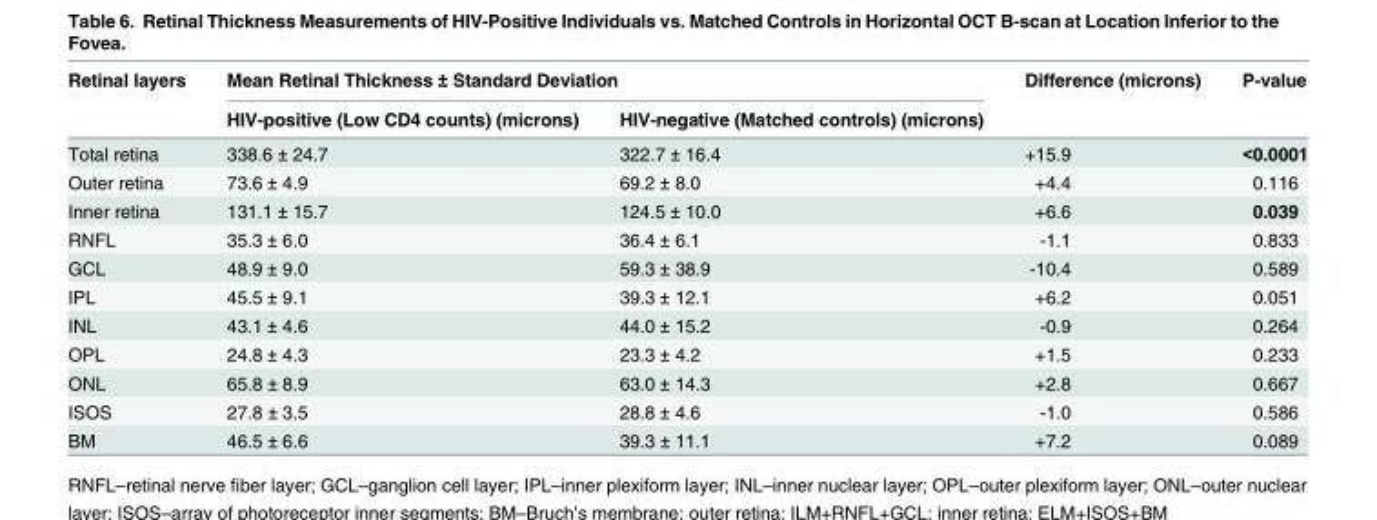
<table><thead><tr><td rowspan="2">Retinal layers</td><td colspan="2">Mean Retinal Thickness ± Standard Deviation</td><td rowspan="2">Difference (microns)</td><td rowspan="2">P-value</td></tr><tr><td>HIV-positive (Low CD4 counts) (microns)</td><td>HIV-negative (Matched controls) (microns)</td></tr></thead><tbody><tr><td>Total retina</td><td>338.6 ± 24.7</td><td>322.7 ± 16.4</td><td>+15.9</td><td>&lt;0.0001</td></tr><tr><td>Outer retina</td><td>73.6 ± 4.9</td><td>69.2 ± 8.0</td><td>+4.4</td><td>0.116</td></tr><tr><td>Inner retina</td><td>131.1 ± 15.7</td><td>124.5 ± 10.0</td><td>+6.6</td><td>0.039</td></tr><tr><td>RNFL</td><td>35.3 ± 6.0</td><td>36.4 ± 6.1</td><td>-1.1</td><td>0.833</td></tr><tr><td>GCL</td><td>48.9 ± 9.0</td><td>59.3 ± 38.9</td><td>-10.4</td><td>0.589</td></tr><tr><td>IPL</td><td>45.5 ± 9.1</td><td>39.3 ± 12.1</td><td>+6.2</td><td>0.051</td></tr><tr><td>INL</td><td>43.1 ± 4.6</td><td>44.0 ± 15.2</td><td>-0.9</td><td>0.264</td></tr><tr><td>OPL</td><td>24.8 ± 4.3</td><td>23.3 ± 4.2</td><td>+1.5</td><td>0.233</td></tr><tr><td>ONL</td><td>65.8 ± 8.9</td><td>63.0 ± 14.3</td><td>+2.8</td><td>0.667</td></tr><tr><td>ISOS</td><td>27.8 ± 3.5</td><td>28.8 ± 4.6</td><td>-1.0</td><td>0.586</td></tr><tr><td>BM</td><td>46.5 ± 6.6</td><td>39.3 ± 11.1</td><td>+7.2</td><td>0.089</td></tr></tbody></table>